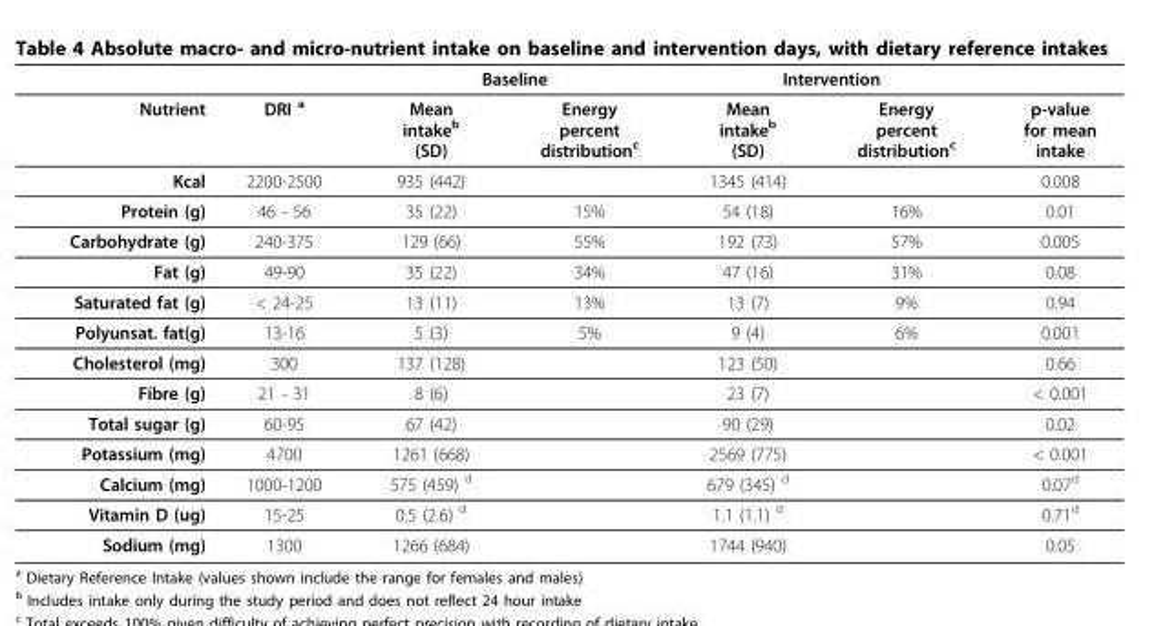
<table><thead><tr><td rowspan="2">Nutrient</td><td rowspan="2">DRI <sup>a</sup></td><td colspan="2">Baseline</td><td colspan="2">Intervention</td><td rowspan="2">p-value for mean intake</td></tr><tr><td>Mean intake<sup>b</sup> (SD)</td><td>Energy percent distribution<sup>c</sup></td><td>Mean intake<sup>b</sup> (SD)</td><td>Energy percent distribution<sup>c</sup></td></tr></thead><tbody><tr><td>Kcal</td><td>2200-2500</td><td>935 (442)</td><td></td><td>1345 (414)</td><td></td><td>0.008</td></tr><tr><td>Protein (g)</td><td>46 - 56</td><td>35 (22)</td><td>15%</td><td>54 (18)</td><td>16%</td><td>0.01</td></tr><tr><td>Carbohydrate (g)</td><td>240-375</td><td>129 (66)</td><td>55%</td><td>192 (73)</td><td>57%</td><td>0.005</td></tr><tr><td>Fat (g)</td><td>49-90</td><td>35 (22)</td><td>34%</td><td>47 (16)</td><td>31%</td><td>0.08</td></tr><tr><td>Saturated fat (g)</td><td>&lt; 24-25</td><td>13 (11)</td><td>13%</td><td>13 (7)</td><td>9%</td><td>0.94</td></tr><tr><td>Polyunsat. fat(g)</td><td>13-16</td><td>5 (3)</td><td>5%</td><td>9 (4)</td><td>6%</td><td>0.001</td></tr><tr><td>Cholesterol (mg)</td><td>300</td><td>137 (128)</td><td></td><td>123 (50)</td><td></td><td>0.66</td></tr><tr><td>Fibre (g)</td><td>21 - 31</td><td>8 (6)</td><td></td><td>23 (7)</td><td></td><td>&lt; 0.001</td></tr><tr><td>Total sugar (g)</td><td>60-95</td><td>67 (42)</td><td></td><td>90 (29)</td><td></td><td>0.02</td></tr><tr><td>Potassium (mg)</td><td>4700</td><td>1261 (668)</td><td></td><td>2569 (775)</td><td></td><td>&lt; 0.001</td></tr><tr><td>Calcium (mg)</td><td>1000-1200</td><td>575 (459) <sup>d</sup></td><td></td><td>679 (345) <sup>d</sup></td><td></td><td>0.07<sup>d</sup></td></tr><tr><td>Vitamin D (ug)</td><td>15-25</td><td>0.5 (2.6) <sup>d</sup></td><td></td><td>1.1 (1.1) <sup>d</sup></td><td></td><td>0.71<sup>d</sup></td></tr><tr><td>Sodium (mg)</td><td>1300</td><td>1266 (684)</td><td></td><td>1744 (940)</td><td></td><td>0.05</td></tr></tbody></table>